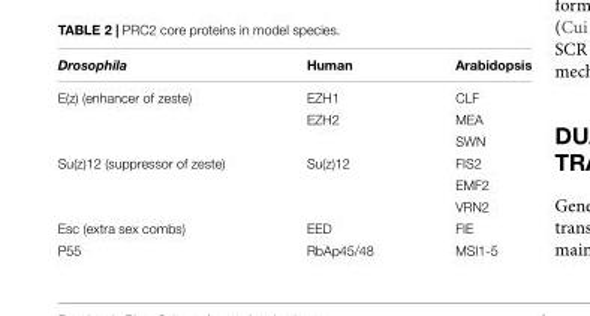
<table><thead><tr><td>Drosophila</td><td>Human</td><td>Arabidopsis</td></tr></thead><tbody><tr><td rowspan="3">E(z) (enhancer of zeste)</td><td>EZH1</td><td>CLF</td></tr><tr><td>EZH2</td><td>MEA</td></tr><tr><td></td><td>SWN</td></tr><tr><td rowspan="3">Su(z)12 (suppressor of zeste)</td><td>Su(z)12</td><td>FIS2</td></tr><tr><td></td><td>EMF2</td></tr><tr><td></td><td>VRN2</td></tr><tr><td>Esc (extra sex combs)</td><td>EED</td><td>FIE</td></tr><tr><td>P55</td><td>RbAp45/48</td><td>MSI1-5</td></tr></tbody></table>